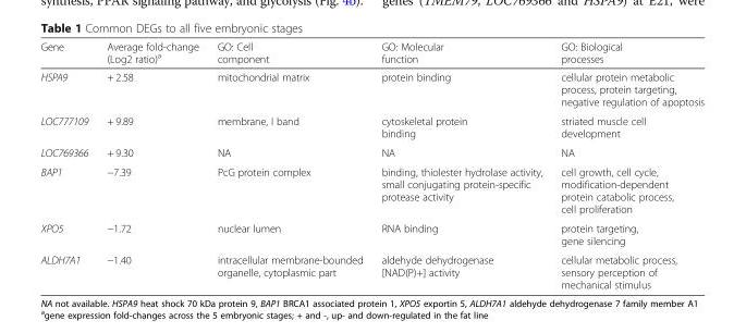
<table><thead><tr><td>Gene</td><td>Average fold-change (Log2 ratio)<sup>a</sup></td><td>GO: Cell component</td><td>GO: Molecular function</td><td>GO: Biological processes</td></tr></thead><tbody><tr><td>HSPA9</td><td>+ 2.58</td><td>mitochondrial matrix</td><td>protein binding</td><td>cellular protein metabolic process, protein targeting, negative regulation of apoptosis</td></tr><tr><td>LOC777109</td><td>+ 9.89</td><td>membrane, I band</td><td>cytoskeletal protein binding</td><td>striated muscle cell development</td></tr><tr><td>LOC769366</td><td>+ 9.30</td><td>NA</td><td>NA</td><td>NA</td></tr><tr><td>BAP1</td><td>−7.39</td><td>PcG protein complex</td><td>binding, thiolester hydrolase activity, small conjugating protein-specific protease activity</td><td>cell growth, cell cycle, modification-dependent protein catabolic process, cell proliferation</td></tr><tr><td>XPO5</td><td>−1.72</td><td>nuclear lumen</td><td>RNA binding</td><td>protein targeting, gene silencing</td></tr><tr><td>ALDH7A1</td><td>−1.40</td><td>intracellular membrane-bounded organelle, cytoplasmic part</td><td>aldehyde dehydrogenase [NAD(P)+] activity</td><td>cellular metabolic process, sensory perception of mechanical stimulus</td></tr></tbody></table>